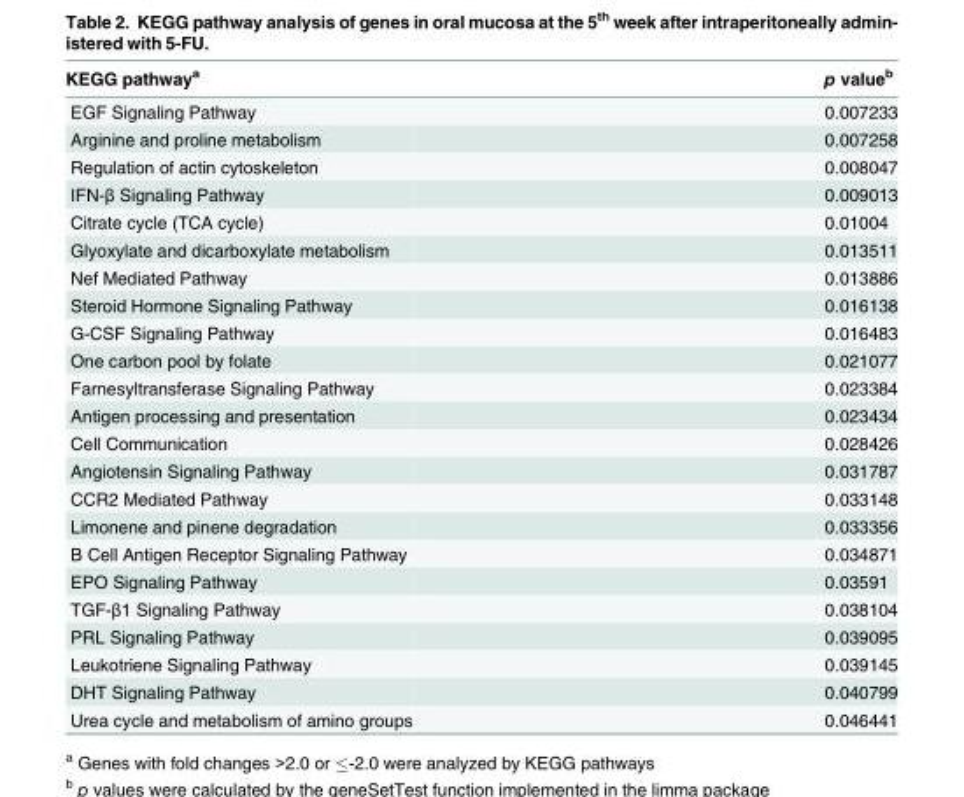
<table><thead><tr><td>KEGG pathway<sup>a</sup></td><td>p value<sup>b</sup></td></tr></thead><tbody><tr><td>EGF Signaling Pathway</td><td>0.007233</td></tr><tr><td>Arginine and proline metabolism</td><td>0.007258</td></tr><tr><td>Regulation of actin cytoskeleton</td><td>0.008047</td></tr><tr><td>IFN-β Signaling Pathway</td><td>0.009013</td></tr><tr><td>Citrate cycle (TCA cycle)</td><td>0.01004</td></tr><tr><td>Glyoxylate and dicarboxylate metabolism</td><td>0.013511</td></tr><tr><td>Nef Mediated Pathway</td><td>0.013886</td></tr><tr><td>Steroid Hormone Signaling Pathway</td><td>0.016138</td></tr><tr><td>G-CSF Signaling Pathway</td><td>0.016483</td></tr><tr><td>One carbon pool by folate</td><td>0.021077</td></tr><tr><td>Farnesyltransferase Signaling Pathway</td><td>0.023384</td></tr><tr><td>Antigen processing and presentation</td><td>0.023434</td></tr><tr><td>Cell Communication</td><td>0.028426</td></tr><tr><td>Angiotensin Signaling Pathway</td><td>0.031787</td></tr><tr><td>CCR2 Mediated Pathway</td><td>0.033148</td></tr><tr><td>Limonene and pinene degradation</td><td>0.033356</td></tr><tr><td>B Cell Antigen Receptor Signaling Pathway</td><td>0.034871</td></tr><tr><td>EPO Signaling Pathway</td><td>0.03591</td></tr><tr><td>TGF-β1 Signaling Pathway</td><td>0.038104</td></tr><tr><td>PRL Signaling Pathway</td><td>0.039095</td></tr><tr><td>Leukotriene Signaling Pathway</td><td>0.039145</td></tr><tr><td>DHT Signaling Pathway</td><td>0.040799</td></tr><tr><td>Urea cycle and metabolism of amino groups</td><td>0.046441</td></tr></tbody></table>